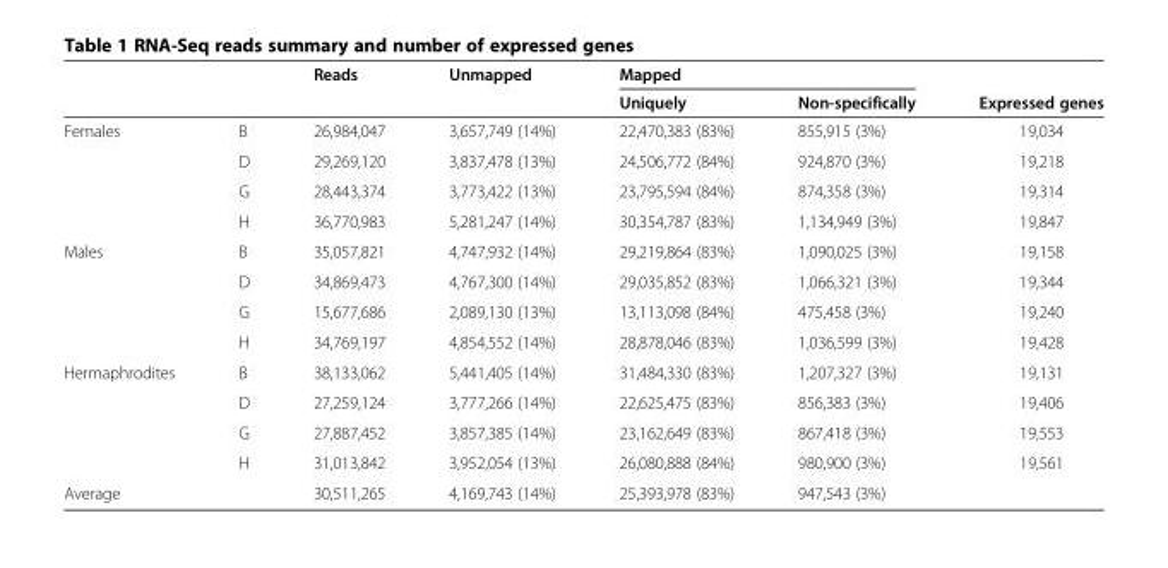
<table><thead><tr><td rowspan="2"></td><td rowspan="2"></td><td rowspan="2">Reads</td><td rowspan="2">Unmapped</td><td colspan="2">Mapped</td><td rowspan="2">Expressed genes</td></tr><tr><td>Uniquely</td><td>Non-specifically</td></tr></thead><tbody><tr><td rowspan="4">Females</td><td>B</td><td>26,984,047</td><td>3,657,749 (14%)</td><td>22,470,383 (83%)</td><td>855,915 (3%)</td><td>19,034</td></tr><tr><td>D</td><td>29,269,120</td><td>3,837,478 (13%)</td><td>24,506,772 (84%)</td><td>924,870 (3%)</td><td>19,218</td></tr><tr><td>G</td><td>28,443,374</td><td>3,773,422 (13%)</td><td>23,795,594 (84%)</td><td>874,358 (3%)</td><td>19,314</td></tr><tr><td>H</td><td>36,770,983</td><td>5,281,247 (14%)</td><td>30,354,787 (83%)</td><td>1,134,949 (3%)</td><td>19,847</td></tr><tr><td rowspan="4">Males</td><td>B</td><td>35,057,821</td><td>4,747,932 (14%)</td><td>29,219,864 (83%)</td><td>1,090,025 (3%)</td><td>19,158</td></tr><tr><td>D</td><td>34,869,473</td><td>4,767,300 (14%)</td><td>29,035,852 (83%)</td><td>1,066,321 (3%)</td><td>19,344</td></tr><tr><td>G</td><td>15,677,686</td><td>2,089,130 (13%)</td><td>13,113,098 (84%)</td><td>475,458 (3%)</td><td>19,240</td></tr><tr><td>H</td><td>34,769,197</td><td>4,854,552 (14%)</td><td>28,878,046 (83%)</td><td>1,036,599 (3%)</td><td>19,428</td></tr><tr><td rowspan="4">Hermaphrodites</td><td>B</td><td>38,133,062</td><td>5,441,405 (14%)</td><td>31,484,330 (83%)</td><td>1,207,327 (3%)</td><td>19,131</td></tr><tr><td>D</td><td>27,259,124</td><td>3,777,266 (14%)</td><td>22,625,475 (83%)</td><td>856,383 (3%)</td><td>19,406</td></tr><tr><td>G</td><td>27,887,452</td><td>3,857,385 (14%)</td><td>23,162,649 (83%)</td><td>867,418 (3%)</td><td>19,553</td></tr><tr><td>H</td><td>31,013,842</td><td>3,952,054 (13%)</td><td>26,080,888 (84%)</td><td>980,900 (3%)</td><td>19,561</td></tr><tr><td colspan="2">Average</td><td>30,511,265</td><td>4,169,743 (14%)</td><td>25,393,978 (83%)</td><td>947,543 (3%)</td><td></td></tr></tbody></table>